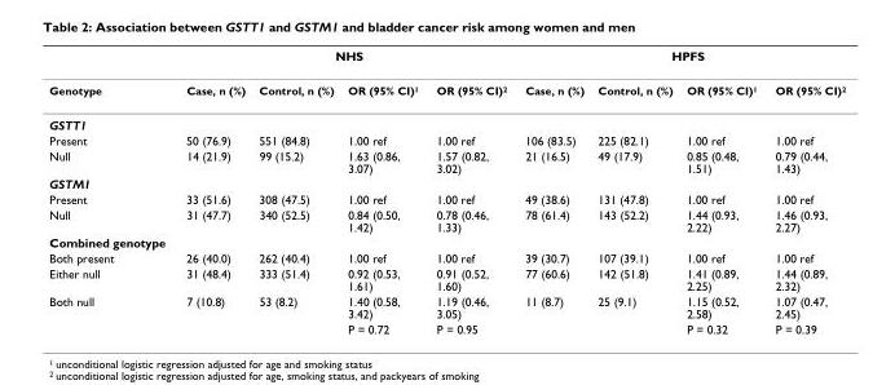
<table><thead><tr><td rowspan="2">Genotype</td><td colspan="4">NHS</td><td colspan="4">HPFS</td></tr><tr><td>Case, n (%)</td><td>Control, n (%)</td><td>OR (95% CI)1</td><td>OR (95% CI)2</td><td>Case, n (%)</td><td>Control, n (%)</td><td>OR (95% CI)1</td><td>OR (95% CI)2</td></tr></thead><tbody><tr><td colspan="9">GSTT1</td></tr><tr><td>Present</td><td>50 (76.9)</td><td>551 (84.8)</td><td>1.00 ref</td><td>1.00 ref</td><td>106 (83.5)</td><td>225 (82.1)</td><td>1.00 ref</td><td>1.00 ref</td></tr><tr><td>Null</td><td>14 (21.9)</td><td>99 (15.2)</td><td>1.63 (0.86, 3.07)</td><td>1.57 (0.82, 3.02)</td><td>21 (16.5)</td><td>49 (17.9)</td><td>0.85 (0.48, 1.51)</td><td>0.79 (0.44, 1.43)</td></tr><tr><td colspan="9">GSTM1</td></tr><tr><td>Present</td><td>33 (51.6)</td><td>308 (47.5)</td><td>1.00 ref</td><td>1.00 ref</td><td>49 (38.6)</td><td>131 (47.8)</td><td>1.00 ref</td><td>1.00 ref</td></tr><tr><td>Null</td><td>31 (47.7)</td><td>340 (52.5)</td><td>0.84 (0.50, 1.42)</td><td>0.78 (0.46, 1.33)</td><td>78 (61.4)</td><td>143 (52.2)</td><td>1.44 (0.93, 2.22)</td><td>1.46 (0.93, 2.27)</td></tr><tr><td colspan="9">Combined genotype</td></tr><tr><td>Both present</td><td>26 (40.0)</td><td>262 (40.4)</td><td>1.00 ref</td><td>1.00 ref</td><td>39 (30.7)</td><td>107 (39.1)</td><td>1.00 ref</td><td>1.00 ref</td></tr><tr><td>Either null</td><td>31 (48.4)</td><td>333 (51.4)</td><td>0.92 (0.53, 1.61)</td><td>0.91 (0.52, 1.60)</td><td>77 (60.6)</td><td>142 (51.8)</td><td>1.41 (0.89, 2.25)</td><td>1.44 (0.89, 2.32)</td></tr><tr><td rowspan="2">Both null</td><td>7 (10.8)</td><td>53 (8.2)</td><td>1.40 (0.58, 3.42)</td><td>1.19 (0.46, 3.05)</td><td>11 (8.7)</td><td>25 (9.1)</td><td>1.15 (0.52, 2.58)</td><td>1.07 (0.47, 2.45)</td></tr><tr><td></td><td></td><td>P = 0.72</td><td>P = 0.95</td><td></td><td></td><td>P = 0.32</td><td>P = 0.39</td></tr></tbody></table>